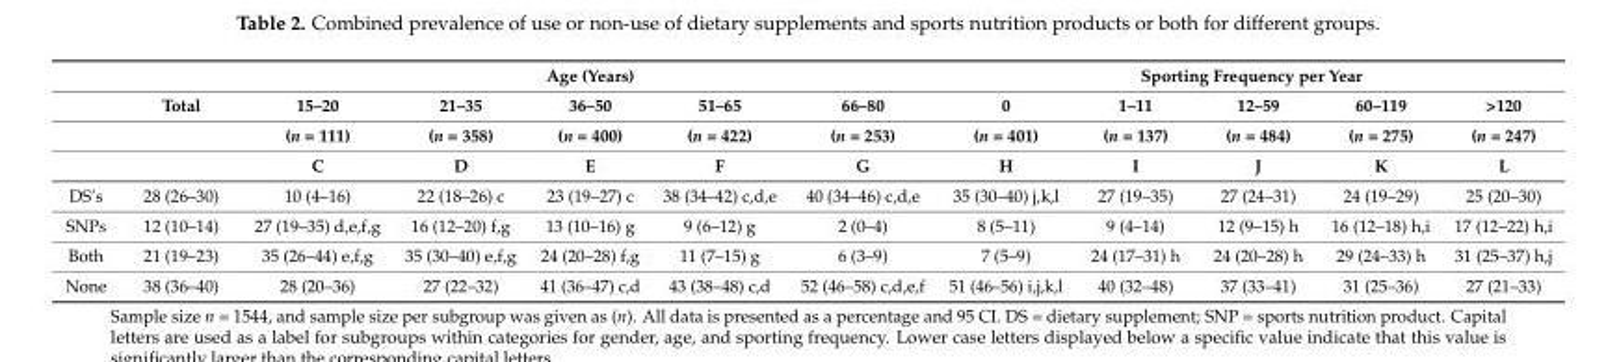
<table><thead><tr><td rowspan="4"></td><td rowspan="4">Total</td><td colspan="5">Age (Years)</td><td colspan="5">Sporting Frequency per Year</td></tr><tr><td rowspan="3">15–20 (n = 111) C</td><td rowspan="3">21–35 (n = 358) D</td><td rowspan="3">36–50 (n = 400) E</td><td rowspan="3">51–65 (n = 422) F</td><td rowspan="3">66–80 (n = 253) G</td><td rowspan="3">0 (n = 401) H</td><td rowspan="3">1–11 (n = 137) I</td><td rowspan="3">12–59 (n = 484) J</td><td rowspan="3">60–119 (n = 275) K</td><td rowspan="3">&gt;120 (n = 247) L</td></tr><tr></tr><tr></tr></thead><tbody><tr><td>DS’s</td><td>28 (26–30)</td><td>10 (4–16)</td><td>22 (18–26) c</td><td>23 (19–27) c</td><td>38 (34–42) c,d,e</td><td>40 (34–46) c,d,e</td><td>35 (30–40) j,k,l</td><td>27 (19–35)</td><td>27 (24–31)</td><td>24 (19–29)</td><td>25 (20–30)</td></tr><tr><td>SNPs</td><td>12 (10–14)</td><td>27 (19–35) d,e,f,g</td><td>16 (12–20) f,g</td><td>13 (10–16) g</td><td>9 (6–12) g</td><td>2 (0–4)</td><td>8 (5–11)</td><td>9 (4–14)</td><td>12 (9–15) h</td><td>16 (12–18) h,i</td><td>17 (12–22) h,i</td></tr><tr><td>Both</td><td>21 (19–23)</td><td>35 (26–44) e,f,g</td><td>35 (30–40) e,f,g</td><td>24 (20–28) f,g</td><td>11 (7–15) g</td><td>6 (3–9)</td><td>7 (5–9)</td><td>24 (17–31) h</td><td>24 (20–28) h</td><td>29 (24–33) h</td><td>31 (25–37) h,j</td></tr><tr><td>None</td><td>38 (36–40)</td><td>28 (20–36)</td><td>27 (22–32)</td><td>41 (36–47) c,d</td><td>43 (38–48) c,d</td><td>52 (46–58) c,d,e,f</td><td>51 (46–56) i,j,k,l</td><td>40 (32–48)</td><td>37 (33–41)</td><td>31 (25–36)</td><td>27 (21–33)</td></tr></tbody></table>